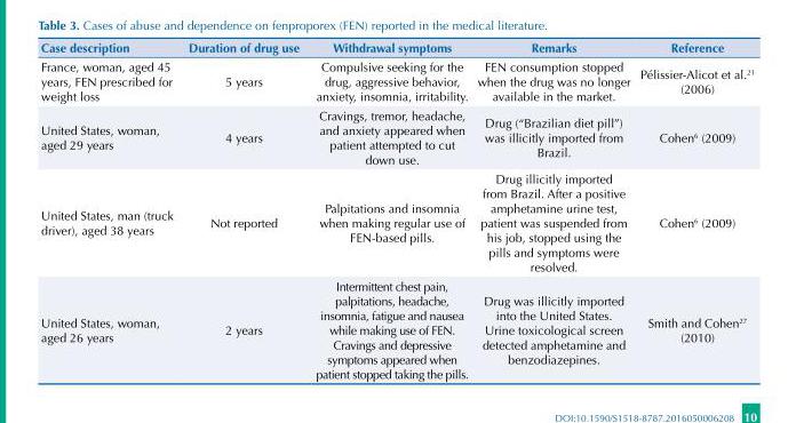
<table><thead><tr><td>Case description</td><td>Duration of drug use</td><td>Withdrawal symptoms</td><td>Remarks</td><td>Reference</td></tr></thead><tbody><tr><td>France, woman, aged 45 years, FEN prescribed for weight loss</td><td>5 years</td><td>Compulsive seeking for the drug, aggressive behavior, anxiety, insomnia, irritability.</td><td>FEN consumption stopped when the drug was no longer available in the market.</td><td>Pélissier-Alicot et al.<sup>21</sup> (2006)</td></tr><tr><td>United States, woman, aged 29 years</td><td>4 years</td><td>Cravings, tremor, headache, and anxiety appeared when patient attempted to cut down use.</td><td>Drug (“Brazilian diet pill”) was illicitly imported from Brazil.</td><td>Cohen<sup>6</sup> (2009)</td></tr><tr><td>United States, man (truck driver), aged 38 years</td><td>Not reported</td><td>Palpitations and insomnia when making regular use of FEN-based pills.</td><td>Drug illicitly imported from Brazil. After a positive amphetamine urine test, patient was suspended from his job, stopped using the pills and symptoms were resolved.</td><td>Cohen<sup>6</sup> (2009)</td></tr><tr><td>United States, woman, aged 26 years</td><td>2 years</td><td>Intermittent chest pain, palpitations, headache, insomnia, fatigue and nausea while making use of FEN. Cravings and depressive symptoms appeared when patient stopped taking the pills.</td><td>Drug was illicitly imported into the United States. Urine toxicological screen detected amphetamine and benzodiazepines.</td><td>Smith and Cohen<sup>27</sup> (2010)</td></tr></tbody></table>